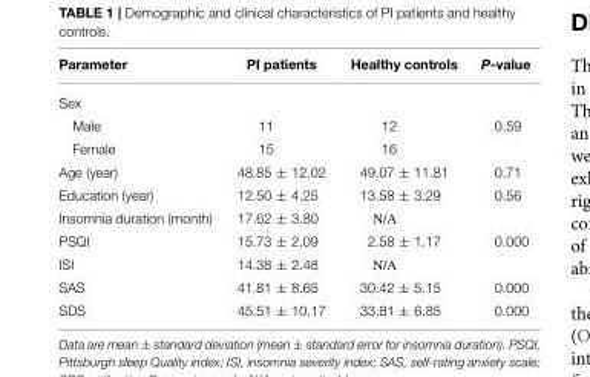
<table><thead><tr><td>Parameter</td><td>PI patients</td><td>Healthy controls</td><td>P-value</td></tr></thead><tbody><tr><td colspan="4">Sex</td></tr><tr><td>Male</td><td>11</td><td>12</td><td>0.59</td></tr><tr><td>Female</td><td>15</td><td>16</td><td></td></tr><tr><td>Age (year)</td><td>48.85 ± 12.02</td><td>49.07 ± 11.81</td><td>0.71</td></tr><tr><td>Education (year)</td><td>12.50 ± 4.25</td><td>13.58 ± 3.29</td><td>0.56</td></tr><tr><td>Insomnia duration (month)</td><td>17.62 ± 3.80</td><td>N/A</td><td></td></tr><tr><td>PSQI</td><td>15.73 ± 2.09</td><td>2.58 ± 1.17</td><td>0.000</td></tr><tr><td>ISI</td><td>14.38 ± 2.48</td><td>N/A</td><td></td></tr><tr><td>SAS</td><td>41.81 ± 8.65</td><td>30.42 ± 5.15</td><td>0.000</td></tr><tr><td>SDS</td><td>45.51 ± 10.17</td><td>33.81 ± 6.85</td><td>0.000</td></tr></tbody></table>